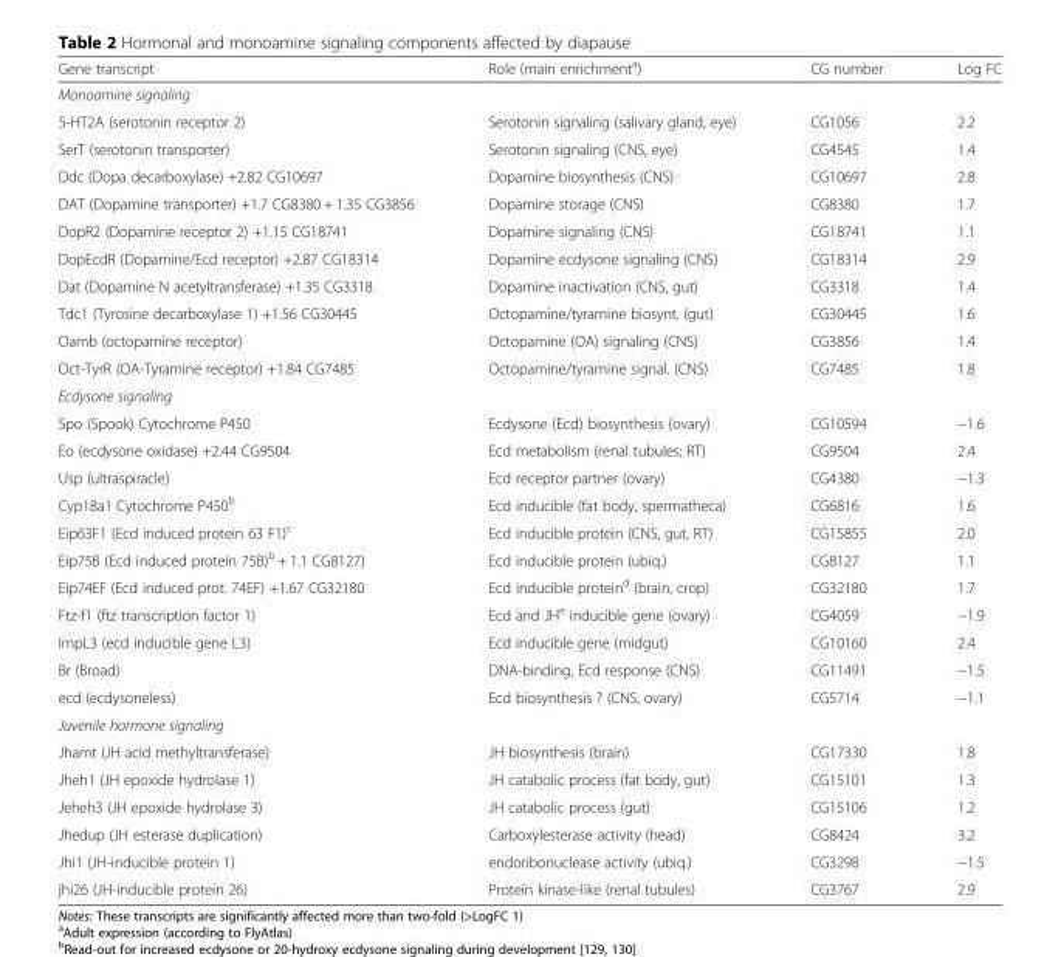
<table><thead><tr><td>Gene transcript</td><td>Role (main enrichment<sup>a</sup>)</td><td>CG number</td><td>Log FC</td></tr></thead><tbody><tr><td colspan="4">Monoamine signaling</td></tr><tr><td>5-HT2A (serotonin receptor 2)</td><td>Serotonin signaling (salivary gland, eye)</td><td>CG1056</td><td>2.2</td></tr><tr><td>SerT (serotonin transporter)</td><td>Serotonin signaling (CNS, eye)</td><td>CG4545</td><td>1.4</td></tr><tr><td>Ddc (Dopa decarboxylase) +2.82 CG10697</td><td>Dopamine biosynthesis (CNS)</td><td>CG10697</td><td>2.8</td></tr><tr><td>DAT (Dopamine transporter) +1.7 CG8380 + 1.35 CG3856</td><td>Dopamine storage (CNS)</td><td>CG8380</td><td>1.7</td></tr><tr><td>DopR2 (Dopamine receptor 2) +1.15 CG18741</td><td>Dopamine signaling (CNS)</td><td>CG18741</td><td>1.1</td></tr><tr><td>DopEcdR (Dopamine/Ecd receptor) +2.87 CG18314</td><td>Dopamine ecdysone signaling (CNS)</td><td>CG18314</td><td>2.9</td></tr><tr><td>Dat (Dopamine N acetyltransferase) +1.35 CG3318</td><td>Dopamine inactivation (CNS, gut)</td><td>CG3318</td><td>1.4</td></tr><tr><td>Tdc1 (Tyrosine decarboxylase 1) +1.56 CG30445</td><td>Octopamine/tyramine biosynt. (gut)</td><td>CG30445</td><td>1.6</td></tr><tr><td>Oamb (octopamine receptor)</td><td>Octopamine (OA) signaling (CNS)</td><td>CG3856</td><td>1.4</td></tr><tr><td>Oct-TyrR (OA-Tyramine receptor) +1.84 CG7485</td><td>Octopamine/tyramine signal. (CNS)</td><td>CG7485</td><td>1.8</td></tr><tr><td colspan="4">Ecdysone signaling</td></tr><tr><td>Spo (Spook) Cytochrome P450</td><td>Ecdysone (Ecd) biosynthesis (ovary)</td><td>CG10594</td><td>−1.6</td></tr><tr><td>Eo (ecdysone oxidase) +2.44 CG9504</td><td>Ecd metabolism (renal tubules; RT)</td><td>CG9504</td><td>2.4</td></tr><tr><td>Usp (ultraspiracle)</td><td>Ecd receptor partner (ovary)</td><td>CG4380</td><td>−1.3</td></tr><tr><td>Cyp18a1 Cytochrome P450<sup>b</sup></td><td>Ecd inducible (fat body, spermatheca)</td><td>CG6816</td><td>1.6</td></tr><tr><td>Eip63F1 (Ecd induced protein 63 F1)<sup>c</sup></td><td>Ecd inducible protein (CNS, gut, RT)</td><td>CG15855</td><td>2.0</td></tr><tr><td>Eip75B (Ecd induced protein 75B)<sup>b</sup> + 1.1 CG8127)</td><td>Ecd inducible protein (ubiq.)</td><td>CG8127</td><td>1.1</td></tr><tr><td>Eip74EF (Ecd induced prot. 74EF) +1.67 CG32180</td><td>Ecd inducible protein<sup>d</sup> (brain, crop)</td><td>CG32180</td><td>1.7</td></tr><tr><td>Ftz-f1 (ftz transcription factor 1)</td><td>Ecd and JH<sup>e</sup> inducible gene (ovary)</td><td>CG4059</td><td>−1.9</td></tr><tr><td>ImpL3 (ecd inducible gene L3)</td><td>Ecd inducible gene (midgut)</td><td>CG10160</td><td>2.4</td></tr><tr><td>Br (Broad)</td><td>DNA-binding, Ecd response (CNS)</td><td>CG11491</td><td>−1.5</td></tr><tr><td>ecd (ecdysoneless)</td><td>Ecd biosynthesis ? (CNS, ovary)</td><td>CG5714</td><td>−1.1</td></tr><tr><td colspan="4">Juvenile hormone signaling</td></tr><tr><td>Jhamt (JH acid methyltransferase)</td><td>JH biosynthesis (brain)</td><td>CG17330</td><td>1.8</td></tr><tr><td>Jheh1 (JH epoxide hydrolase 1)</td><td>JH catabolic process (fat body, gut)</td><td>CG15101</td><td>1.3</td></tr><tr><td>Jeheh3 (JH epoxide hydrolase 3)</td><td>JH catabolic process (gut)</td><td>CG15106</td><td>1.2</td></tr><tr><td>Jhedup (JH esterase duplication)</td><td>Carboxylesterase activity (head)</td><td>CG8424</td><td>3.2</td></tr><tr><td>Jhi1 (JH-inducible protein 1)</td><td>endoribonuclease activity (ubiq.)</td><td>CG3298</td><td>−1.5</td></tr><tr><td>jhi26 (JH-inducible protein 26)</td><td>Protein kinase-like (renal tubules)</td><td>CG3767</td><td>2.9</td></tr></tbody></table>